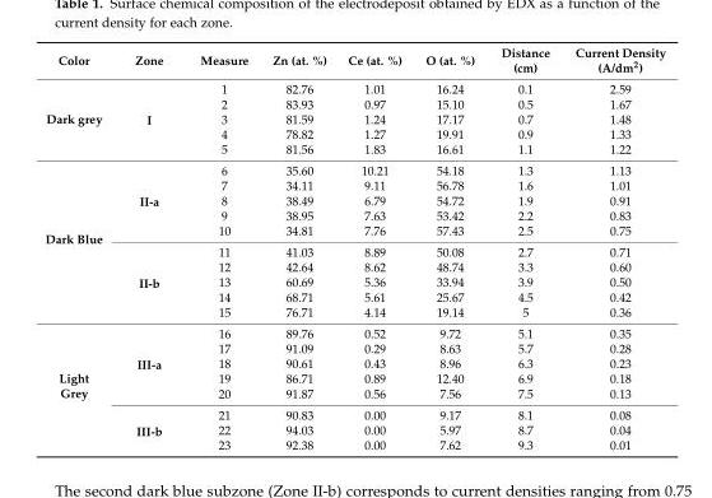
<table><thead><tr><td>Color</td><td>Zone</td><td>Measure</td><td>Zn (at. %)</td><td>Ce (at. %)</td><td>O (at. %)</td><td>Distance (cm)</td><td>Current Density (A/dm<sup>2</sup>)</td></tr></thead><tbody><tr><td rowspan="5">Dark grey</td><td rowspan="5">I</td><td>1</td><td>82.76</td><td>1.01</td><td>16.24</td><td>0.1</td><td>2.59</td></tr><tr><td>2</td><td>83.93</td><td>0.97</td><td>15.10</td><td>0.5</td><td>1.67</td></tr><tr><td>3</td><td>81.59</td><td>1.24</td><td>17.17</td><td>0.7</td><td>1.48</td></tr><tr><td>4</td><td>78.82</td><td>1.27</td><td>19.91</td><td>0.9</td><td>1.33</td></tr><tr><td>5</td><td>81.56</td><td>1.83</td><td>16.61</td><td>1.1</td><td>1.22</td></tr><tr><td rowspan="10">Dark Blue</td><td rowspan="5">II-a</td><td>6</td><td>35.60</td><td>10.21</td><td>54.18</td><td>1.3</td><td>1.13</td></tr><tr><td>7</td><td>34.11</td><td>9.11</td><td>56.78</td><td>1.6</td><td>1.01</td></tr><tr><td>8</td><td>38.49</td><td>6.79</td><td>54.72</td><td>1.9</td><td>0.91</td></tr><tr><td>9</td><td>38.95</td><td>7.63</td><td>53.42</td><td>2.2</td><td>0.83</td></tr><tr><td>10</td><td>34.81</td><td>7.76</td><td>57.43</td><td>2.5</td><td>0.75</td></tr><tr><td rowspan="5">II-b</td><td>11</td><td>41.03</td><td>8.89</td><td>50.08</td><td>2.7</td><td>0.71</td></tr><tr><td>12</td><td>42.64</td><td>8.62</td><td>48.74</td><td>3.3</td><td>0.60</td></tr><tr><td>13</td><td>60.69</td><td>5.36</td><td>33.94</td><td>3.9</td><td>0.50</td></tr><tr><td>14</td><td>68.71</td><td>5.61</td><td>25.67</td><td>4.5</td><td>0.42</td></tr><tr><td>15</td><td>76.71</td><td>4.14</td><td>19.14</td><td>5</td><td>0.36</td></tr><tr><td rowspan="8">Light Grey</td><td rowspan="5">III-a</td><td>16</td><td>89.76</td><td>0.52</td><td>9.72</td><td>5.1</td><td>0.35</td></tr><tr><td>17</td><td>91.09</td><td>0.29</td><td>8.63</td><td>5.7</td><td>0.28</td></tr><tr><td>18</td><td>90.61</td><td>0.43</td><td>8.96</td><td>6.3</td><td>0.23</td></tr><tr><td>19</td><td>86.71</td><td>0.89</td><td>12.40</td><td>6.9</td><td>0.18</td></tr><tr><td>20</td><td>91.87</td><td>0.56</td><td>7.56</td><td>7.5</td><td>0.13</td></tr><tr><td rowspan="3">III-b</td><td>21</td><td>90.83</td><td>0.00</td><td>9.17</td><td>8.1</td><td>0.08</td></tr><tr><td>22</td><td>94.03</td><td>0.00</td><td>5.97</td><td>8.7</td><td>0.04</td></tr><tr><td>23</td><td>92.38</td><td>0.00</td><td>7.62</td><td>9.3</td><td>0.01</td></tr></tbody></table>